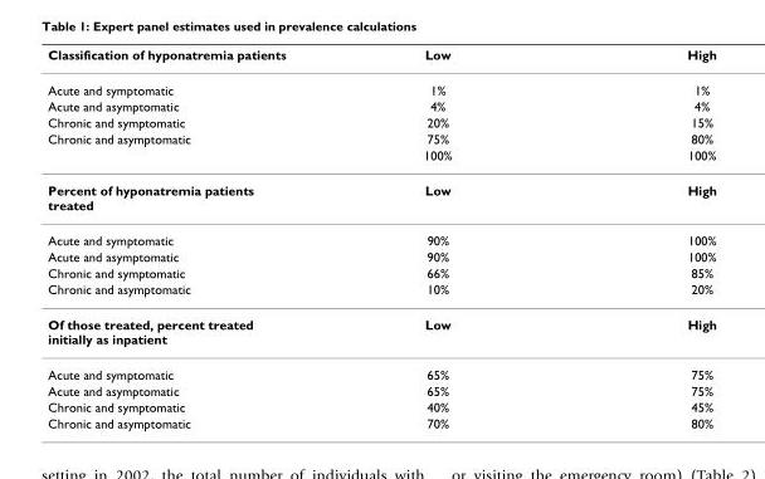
<table><thead><tr><td>Classification of hyponatremia patients</td><td>Low</td><td>High</td></tr></thead><tbody><tr><td>Acute and symptomatic</td><td>1%</td><td>1%</td></tr><tr><td>Acute and asymptomatic</td><td>4%</td><td>4%</td></tr><tr><td>Chronic and symptomatic</td><td>20%</td><td>15%</td></tr><tr><td rowspan="2">Chronic and asymptomatic</td><td>75%</td><td>80%</td></tr><tr><td>100%</td><td>100%</td></tr><tr><td>Percent of hyponatremia patients treated</td><td>Low</td><td>High</td></tr><tr><td>Acute and symptomatic</td><td>90%</td><td>100%</td></tr><tr><td>Acute and asymptomatic</td><td>90%</td><td>100%</td></tr><tr><td>Chronic and symptomatic</td><td>66%</td><td>85%</td></tr><tr><td>Chronic and asymptomatic</td><td>10%</td><td>20%</td></tr><tr><td>Of those treated, percent treated initially as inpatient</td><td>Low</td><td>High</td></tr><tr><td>Acute and symptomatic</td><td>65%</td><td>75%</td></tr><tr><td>Acute and asymptomatic</td><td>65%</td><td>75%</td></tr><tr><td>Chronic and symptomatic</td><td>40%</td><td>45%</td></tr><tr><td>Chronic and asymptomatic</td><td>70%</td><td>80%</td></tr></tbody></table>